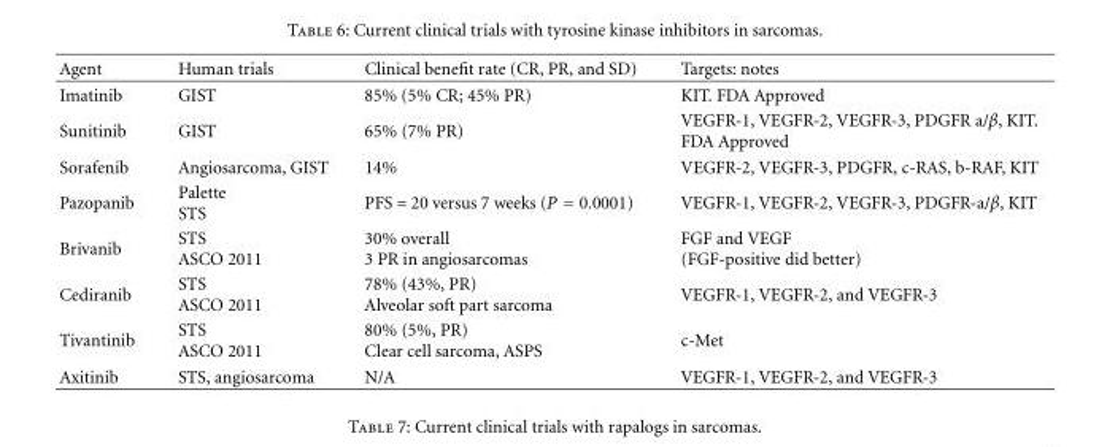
<table><thead><tr><td>Agent</td><td>Human trials</td><td>Clinical benefit rate (CR, PR, and SD)</td><td>Targets: notes</td></tr></thead><tbody><tr><td>Imatinib</td><td>GIST</td><td>85% (5% CR; 45% PR)</td><td>KIT. FDA Approved</td></tr><tr><td>Sunitinib</td><td>GIST</td><td>65% (7% PR)</td><td>VEGFR-1, VEGFR-2, VEGFR-3, PDGFR a/β, KIT. FDA Approved</td></tr><tr><td>Sorafenib</td><td>Angiosarcoma, GIST</td><td>14%</td><td>VEGFR-2, VEGFR-3, PDGFR, c-RAS, b-RAF, KIT</td></tr><tr><td>Pazopanib</td><td>Palette STS</td><td>PFS = 20 versus 7 weeks (P = 0.0001)</td><td>VEGFR-1, VEGFR-2, VEGFR-3, PDGFR-a/β, KIT</td></tr><tr><td>Brivanib</td><td>STS ASCO 2011</td><td>30% overall 3 PR in angiosarcomas</td><td>FGF and VEGF (FGF-positive did better)</td></tr><tr><td>Cediranib</td><td>STS ASCO 2011</td><td>78% (43%, PR) Alveolar soft part sarcoma</td><td>VEGFR-1, VEGFR-2, and VEGFR-3</td></tr><tr><td>Tivantinib</td><td>STS ASCO 2011</td><td>80% (5%, PR) Clear cell sarcoma, ASPS</td><td>c-Met</td></tr><tr><td>Axitinib</td><td>STS, angiosarcoma</td><td>N/A</td><td>VEGFR-1, VEGFR-2, and VEGFR-3</td></tr></tbody></table>